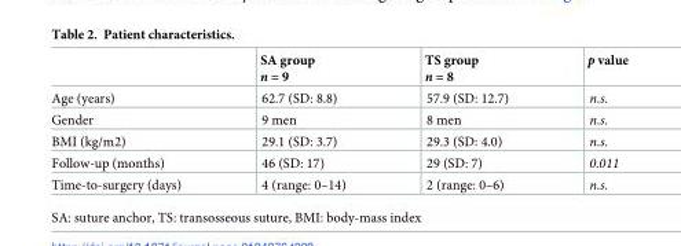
<table><thead><tr><td></td><td>SA group n = 9</td><td>TS group n = 8</td><td>p value</td></tr></thead><tbody><tr><td>Age (years)</td><td>62.7 (SD: 8.8)</td><td>57.9 (SD: 12.7)</td><td>n.s.</td></tr><tr><td>Gender</td><td>9 men</td><td>8 men</td><td>n.s.</td></tr><tr><td>BMI (kg/m2)</td><td>29.1 (SD: 3.7)</td><td>29.3 (SD: 4.0)</td><td>n.s.</td></tr><tr><td>Follow-up (months)</td><td>46 (SD: 17)</td><td>29 (SD: 7)</td><td>0.011</td></tr><tr><td>Time-to-surgery (days)</td><td>4 (range: 0–14)</td><td>2 (range: 0–6)</td><td>n.s.</td></tr></tbody></table>